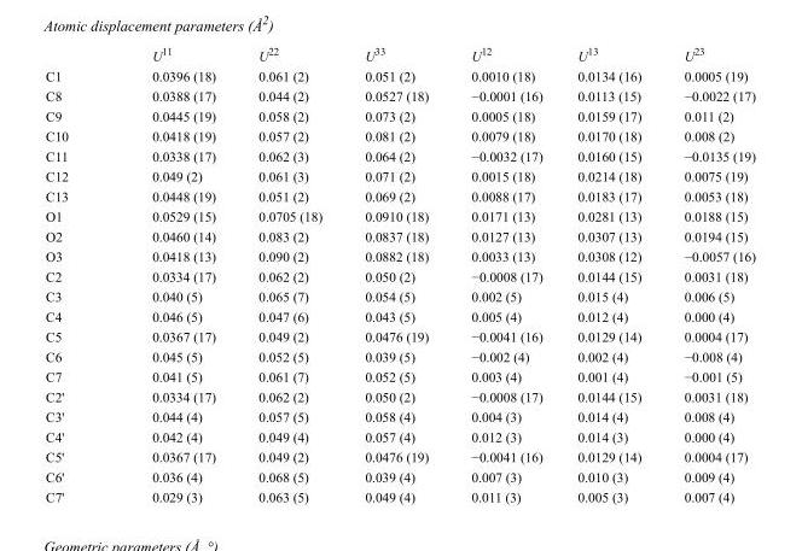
<table><thead><tr><td></td><td>U<sup>11</sup></td><td>U<sup>22</sup></td><td>U<sup>33</sup></td><td>U<sup>12</sup></td><td>U<sup>13</sup></td><td>U<sup>23</sup></td></tr></thead><tbody><tr><td>C1</td><td>0.0396 (18)</td><td>0.061 (2)</td><td>0.051 (2)</td><td>0.0010 (18)</td><td>0.0134 (16)</td><td>0.0005 (19)</td></tr><tr><td>C8</td><td>0.0388 (17)</td><td>0.044 (2)</td><td>0.0527 (18)</td><td>−0.0001 (16)</td><td>0.0113 (15)</td><td>−0.0022 (17)</td></tr><tr><td>C9</td><td>0.0445 (19)</td><td>0.058 (2)</td><td>0.073 (2)</td><td>0.0005 (18)</td><td>0.0159 (17)</td><td>0.011 (2)</td></tr><tr><td>C10</td><td>0.0418 (19)</td><td>0.057 (2)</td><td>0.081 (2)</td><td>0.0079 (18)</td><td>0.0170 (18)</td><td>0.008 (2)</td></tr><tr><td>C11</td><td>0.0338 (17)</td><td>0.062 (3)</td><td>0.064 (2)</td><td>−0.0032 (17)</td><td>0.0160 (15)</td><td>−0.0135 (19)</td></tr><tr><td>C12</td><td>0.049 (2)</td><td>0.061 (3)</td><td>0.071 (2)</td><td>0.0015 (18)</td><td>0.0214 (18)</td><td>0.0075 (19)</td></tr><tr><td>C13</td><td>0.0448 (19)</td><td>0.051 (2)</td><td>0.069 (2)</td><td>0.0088 (17)</td><td>0.0183 (17)</td><td>0.0053 (18)</td></tr><tr><td>O1</td><td>0.0529 (15)</td><td>0.0705 (18)</td><td>0.0910 (18)</td><td>0.0171 (13)</td><td>0.0281 (13)</td><td>0.0188 (15)</td></tr><tr><td>O2</td><td>0.0460 (14)</td><td>0.083 (2)</td><td>0.0837 (18)</td><td>0.0127 (13)</td><td>0.0307 (13)</td><td>0.0194 (15)</td></tr><tr><td>O3</td><td>0.0418 (13)</td><td>0.090 (2)</td><td>0.0882 (18)</td><td>0.0033 (13)</td><td>0.0308 (12)</td><td>−0.0057 (16)</td></tr><tr><td>C2</td><td>0.0334 (17)</td><td>0.062 (2)</td><td>0.050 (2)</td><td>−0.0008 (17)</td><td>0.0144 (15)</td><td>0.0031 (18)</td></tr><tr><td>C3</td><td>0.040 (5)</td><td>0.065 (7)</td><td>0.054 (5)</td><td>0.002 (5)</td><td>0.015 (4)</td><td>0.006 (5)</td></tr><tr><td>C4</td><td>0.046 (5)</td><td>0.047 (6)</td><td>0.043 (5)</td><td>0.005 (4)</td><td>0.012 (4)</td><td>0.000 (4)</td></tr><tr><td>C5</td><td>0.0367 (17)</td><td>0.049 (2)</td><td>0.0476 (19)</td><td>−0.0041 (16)</td><td>0.0129 (14)</td><td>0.0004 (17)</td></tr><tr><td>C6</td><td>0.045 (5)</td><td>0.052 (5)</td><td>0.039 (5)</td><td>−0.002 (4)</td><td>0.002 (4)</td><td>−0.008 (4)</td></tr><tr><td>C7</td><td>0.041 (5)</td><td>0.061 (7)</td><td>0.052 (5)</td><td>0.003 (4)</td><td>0.001 (4)</td><td>−0.001 (5)</td></tr><tr><td>C2&#x27;</td><td>0.0334 (17)</td><td>0.062 (2)</td><td>0.050 (2)</td><td>−0.0008 (17)</td><td>0.0144 (15)</td><td>0.0031 (18)</td></tr><tr><td>C3&#x27;</td><td>0.044 (4)</td><td>0.057 (5)</td><td>0.058 (4)</td><td>0.004 (3)</td><td>0.014 (4)</td><td>0.008 (4)</td></tr><tr><td>C4&#x27;</td><td>0.042 (4)</td><td>0.049 (4)</td><td>0.057 (4)</td><td>0.012 (3)</td><td>0.014 (3)</td><td>0.000 (4)</td></tr><tr><td>C5&#x27;</td><td>0.0367 (17)</td><td>0.049 (2)</td><td>0.0476 (19)</td><td>−0.0041 (16)</td><td>0.0129 (14)</td><td>0.0004 (17)</td></tr><tr><td>C6&#x27;</td><td>0.036 (4)</td><td>0.068 (5)</td><td>0.039 (4)</td><td>0.007 (3)</td><td>0.010 (3)</td><td>0.009 (4)</td></tr><tr><td>C7&#x27;</td><td>0.029 (3)</td><td>0.063 (5)</td><td>0.049 (4)</td><td>0.011 (3)</td><td>0.005 (3)</td><td>0.007 (4)</td></tr></tbody></table>